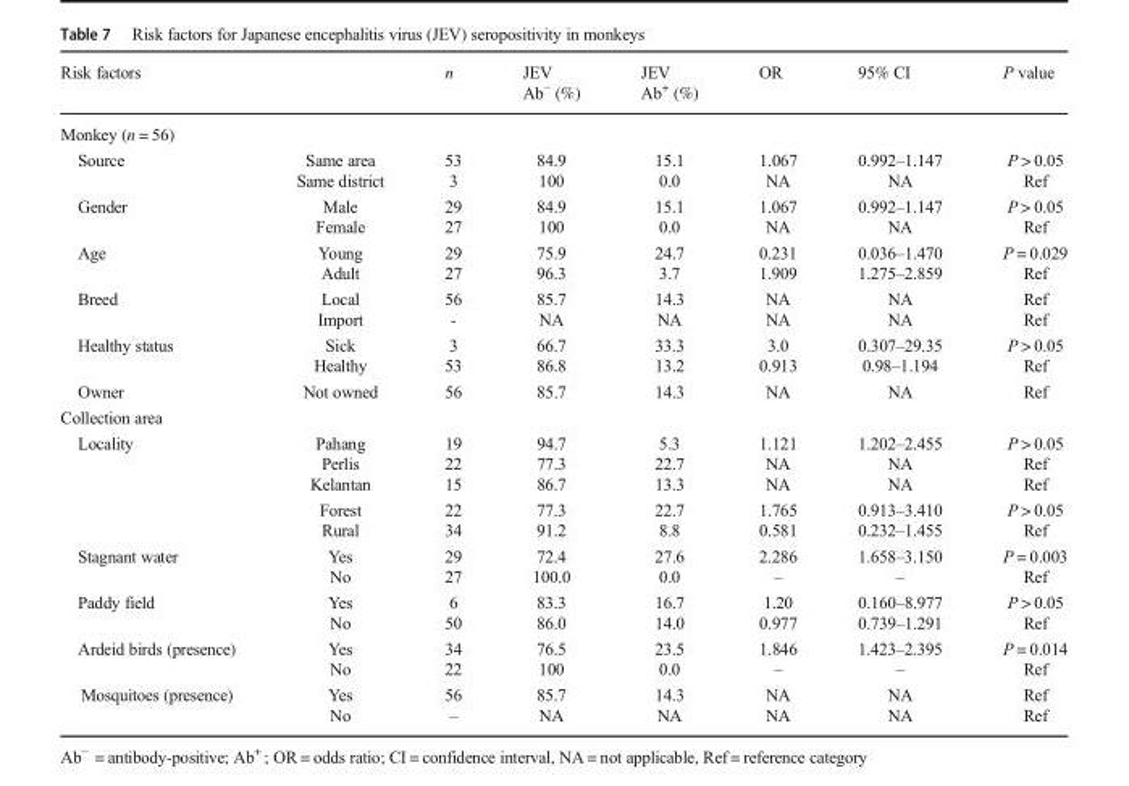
<table><thead><tr><td colspan="2">Risk factors</td><td>n</td><td>JEV Ab<sup>−</sup> (%)</td><td>JEV Ab<sup>+</sup> (%)</td><td>OR</td><td>95% CI</td><td>P value</td></tr><tr><td colspan="8">Monkey (n = 56)</td></tr><tr><td>Source</td><td>Same area Same district</td><td>53 3</td><td>84.9 100</td><td>15.1 0.0</td><td>1.067 NA</td><td>0.992–1.147 NA</td><td>P &gt; 0.05 Ref</td></tr></thead><tbody><tr><td>Gender</td><td>Male Female</td><td>29 27</td><td>84.9 100</td><td>15.1 0.0</td><td>1.067 NA</td><td>0.992–1.147 NA</td><td>P &gt; 0.05 Ref</td></tr><tr><td>Age</td><td>Young Adult</td><td>29 27</td><td>75.9 96.3</td><td>24.7 3.7</td><td>0.231 1.909</td><td>0.036–1.470 1.275–2.859</td><td>P = 0.029 Ref</td></tr><tr><td>Breed</td><td>Local Import</td><td>56 -</td><td>85.7 NA</td><td>14.3 NA</td><td>NA NA</td><td>NA NA</td><td>Ref Ref</td></tr><tr><td>Healthy status</td><td>Sick Healthy</td><td>3 53</td><td>66.7 86.8</td><td>33.3 13.2</td><td>3.0 0.913</td><td>0.307–29.35 0.98–1.194</td><td>P &gt; 0.05 Ref</td></tr><tr><td>Owner</td><td>Not owned</td><td>56</td><td>85.7</td><td>14.3</td><td>NA</td><td>NA</td><td>Ref</td></tr><tr><td colspan="8">Collection area</td></tr><tr><td rowspan="2">Locality</td><td>Pahang Perlis Kelantan</td><td>19 22 15</td><td>94.7 77.3 86.7</td><td>5.3 22.7 13.3</td><td>1.121 NA NA</td><td>1.202–2.455 NA NA</td><td>P &gt; 0.05 Ref Ref</td></tr><tr><td>Forest Rural</td><td>22 34</td><td>77.3 91.2</td><td>22.7 8.8</td><td>1.765 0.581</td><td>0.913–3.410 0.232–1.455</td><td>P &gt; 0.05 Ref</td></tr><tr><td>Stagnant water</td><td>Yes No</td><td>29 27</td><td>72.4 100.0</td><td>27.6 0.0</td><td>2.286 –</td><td>1.658–3.150 –</td><td>P = 0.003 Ref</td></tr><tr><td>Paddy field</td><td>Yes No</td><td>6 50</td><td>83.3 86.0</td><td>16.7 14.0</td><td>1.20 0.977</td><td>0.160–8.977 0.739–1.291</td><td>P &gt; 0.05 Ref</td></tr><tr><td>Ardeid birds (presence)</td><td>Yes No</td><td>34 22</td><td>76.5 100</td><td>23.5 0.0</td><td>1.846 –</td><td>1.423–2.395 –</td><td>P = 0.014 Ref</td></tr><tr><td>Mosquitoes (presence)</td><td>Yes No</td><td>56 –</td><td>85.7 NA</td><td>14.3 NA</td><td>NA NA</td><td>NA NA</td><td>Ref Ref</td></tr></tbody></table>